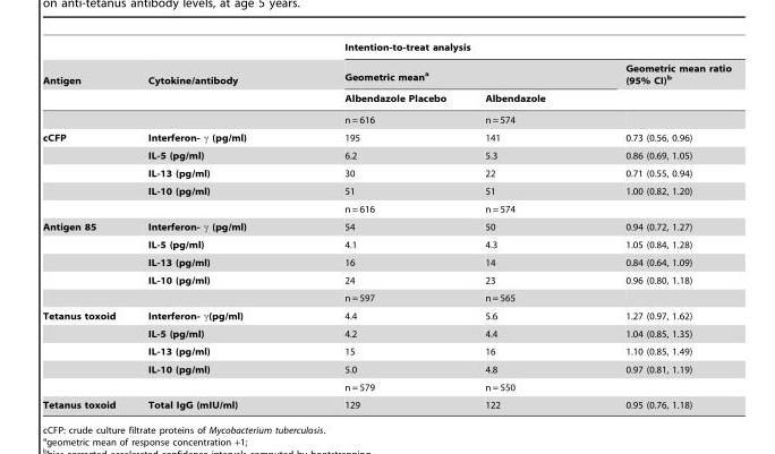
<table><thead><tr><td rowspan="3">Antigen</td><td rowspan="3">Cytokine/antibody</td><td colspan="3">Intention-to-treat analysis</td></tr><tr><td colspan="2">Geometric mean<sup>a</sup></td><td rowspan="2">Geometric mean ratio (95% CI)<sup>b</sup></td></tr><tr><td>Albendazole Placebo</td><td>Albendazole</td></tr></thead><tbody><tr><td></td><td></td><td>n = 616</td><td>n = 574</td><td></td></tr><tr><td rowspan="5">cCFP</td><td>Interferon- γ (pg/ml)</td><td>195</td><td>141</td><td>0.73 (0.56, 0.96)</td></tr><tr><td>IL-5 (pg/ml)</td><td>6.2</td><td>5.3</td><td>0.86 (0.69, 1.05)</td></tr><tr><td>IL-13 (pg/ml)</td><td>30</td><td>22</td><td>0.71 (0.55, 0.94)</td></tr><tr><td>IL-10 (pg/ml)</td><td>51</td><td>51</td><td>1.00 (0.82, 1.20)</td></tr><tr><td></td><td>n = 616</td><td>n = 574</td><td></td></tr><tr><td rowspan="5">Antigen 85</td><td>Interferon- γ (pg/ml)</td><td>54</td><td>50</td><td>0.94 (0.72, 1.27)</td></tr><tr><td>IL-5 (pg/ml)</td><td>4.1</td><td>4.3</td><td>1.05 (0.84, 1.28)</td></tr><tr><td>IL-13 (pg/ml)</td><td>16</td><td>14</td><td>0.84 (0.64, 1.09)</td></tr><tr><td>IL-10 (pg/ml)</td><td>24</td><td>23</td><td>0.96 (0.80, 1.18)</td></tr><tr><td></td><td>n = 597</td><td>n = 565</td><td></td></tr><tr><td rowspan="5">Tetanus toxoid</td><td>Interferon- γ(pg/ml)</td><td>4.4</td><td>5.6</td><td>1.27 (0.97, 1.62)</td></tr><tr><td>IL-5 (pg/ml)</td><td>4.2</td><td>4.4</td><td>1.04 (0.85, 1.35)</td></tr><tr><td>IL-13 (pg/ml)</td><td>15</td><td>16</td><td>1.10 (0.85, 1.49)</td></tr><tr><td>IL-10 (pg/ml)</td><td>5.0</td><td>4.8</td><td>0.97 (0.81, 1.19)</td></tr><tr><td></td><td>n = 579</td><td>n = 550</td><td></td></tr><tr><td>Tetanus toxoid</td><td>Total IgG (mIU/ml)</td><td>129</td><td>122</td><td>0.95 (0.76, 1.18)</td></tr></tbody></table>